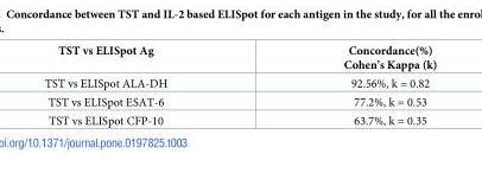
<table><thead><tr><td>TST vs ELISpot Ag</td><td>Concordance(%) Cohen’s Kappa (k)</td></tr></thead><tbody><tr><td>TST vs ELISpot ALA-DH</td><td>92.56%, k = 0.82</td></tr><tr><td>TST vs ELISpot ESAT-6</td><td>77.2%, k = 0.53</td></tr><tr><td>TST vs ELISpot CFP-10</td><td>63.7%, k = 0.35</td></tr></tbody></table>